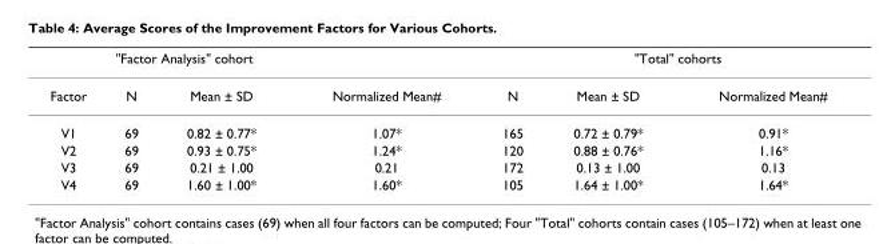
<table><thead><tr><td rowspan="2">Factor</td><td colspan="3">&quot;Factor Analysis&quot; cohort</td><td colspan="3">&quot;Total&quot; cohorts</td></tr><tr><td>N</td><td>Mean ± SD</td><td>Normalized Mean#</td><td>N</td><td>Mean ± SD</td><td>Normalized Mean#</td></tr></thead><tbody><tr><td>V1</td><td>69</td><td>0.82 ± 0.77*</td><td>1.07*</td><td>165</td><td>0.72 ± 0.79*</td><td>0.91*</td></tr><tr><td>V2</td><td>69</td><td>0.93 ± 0.75*</td><td>1.24*</td><td>120</td><td>0.88 ± 0.76*</td><td>1.16*</td></tr><tr><td>V3</td><td>69</td><td>0.21 ± 1.00</td><td>0.21</td><td>172</td><td>0.13 ± 1.00</td><td>0.13</td></tr><tr><td>V4</td><td>69</td><td>1.60 ± 1.00*</td><td>1.60*</td><td>105</td><td>1.64 ± 1.00*</td><td>1.64*</td></tr></tbody></table>